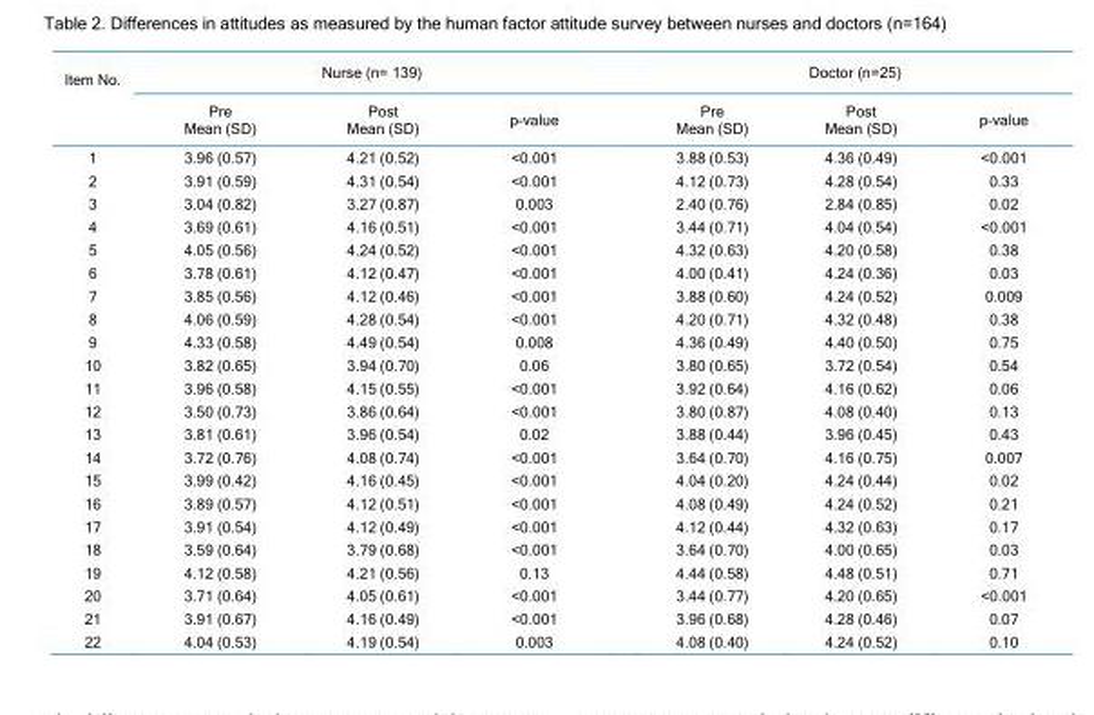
<table><thead><tr><td rowspan="2">Item No.</td><td colspan="3">Nurse (n= 139)</td><td colspan="3">Doctor (n=25)</td></tr><tr><td>Pre Mean (SD)</td><td>Post Mean (SD)</td><td>p-value</td><td>Pre Mean (SD)</td><td>Post Mean (SD)</td><td>p-value</td></tr></thead><tbody><tr><td>1</td><td>3.96 (0.57)</td><td>4.21 (0.52)</td><td>&lt;0.001</td><td>3.88 (0.53)</td><td>4.36 (0.49)</td><td>&lt;0.001</td></tr><tr><td>2</td><td>3.91 (0.59)</td><td>4.31 (0.54)</td><td>&lt;0.001</td><td>4.12 (0.73)</td><td>4.28 (0.54)</td><td>0.33</td></tr><tr><td>3</td><td>3.04 (0.82)</td><td>3.27 (0.87)</td><td>0.003</td><td>2.40 (0.76)</td><td>2.84 (0.85)</td><td>0.02</td></tr><tr><td>4</td><td>3.69 (0.61)</td><td>4.16 (0.51)</td><td>&lt;0.001</td><td>3.44 (0.71)</td><td>4.04 (0.54)</td><td>&lt;0.001</td></tr><tr><td>5</td><td>4.05 (0.56)</td><td>4.24 (0.52)</td><td>&lt;0.001</td><td>4.32 (0.63)</td><td>4.20 (0.58)</td><td>0.38</td></tr><tr><td>6</td><td>3.78 (0.61)</td><td>4.12 (0.47)</td><td>&lt;0.001</td><td>4.00 (0.41)</td><td>4.24 (0.36)</td><td>0.03</td></tr><tr><td>7</td><td>3.85 (0.56)</td><td>4.12 (0.46)</td><td>&lt;0.001</td><td>3.88 (0.60)</td><td>4.24 (0.52)</td><td>0.009</td></tr><tr><td>8</td><td>4.06 (0.59)</td><td>4.28 (0.54)</td><td>&lt;0.001</td><td>4.20 (0.71)</td><td>4.32 (0.48)</td><td>0.38</td></tr><tr><td>9</td><td>4.33 (0.58)</td><td>4.49 (0.54)</td><td>0.008</td><td>4.36 (0.49)</td><td>4.40 (0.50)</td><td>0.75</td></tr><tr><td>10</td><td>3.82 (0.65)</td><td>3.94 (0.70)</td><td>0.06</td><td>3.80 (0.65)</td><td>3.72 (0.54)</td><td>0.54</td></tr><tr><td>11</td><td>3.96 (0.58)</td><td>4.15 (0.55)</td><td>&lt;0.001</td><td>3.92 (0.64)</td><td>4.16 (0.62)</td><td>0.06</td></tr><tr><td>12</td><td>3.50 (0.73)</td><td>3.86 (0.64)</td><td>&lt;0.001</td><td>3.80 (0.87)</td><td>4.08 (0.40)</td><td>0.13</td></tr><tr><td>13</td><td>3.81 (0.61)</td><td>3.96 (0.54)</td><td>0.02</td><td>3.88 (0.44)</td><td>3.96 (0.45)</td><td>0.43</td></tr><tr><td>14</td><td>3.72 (0.76)</td><td>4.08 (0.74)</td><td>&lt;0.001</td><td>3.64 (0.70)</td><td>4.16 (0.75)</td><td>0.007</td></tr><tr><td>15</td><td>3.99 (0.42)</td><td>4.16 (0.45)</td><td>&lt;0.001</td><td>4.04 (0.20)</td><td>4.24 (0.44)</td><td>0.02</td></tr><tr><td>16</td><td>3.89 (0.57)</td><td>4.12 (0.51)</td><td>&lt;0.001</td><td>4.08 (0.49)</td><td>4.24 (0.52)</td><td>0.21</td></tr><tr><td>17</td><td>3.91 (0.54)</td><td>4.12 (0.49)</td><td>&lt;0.001</td><td>4.12 (0.44)</td><td>4.32 (0.63)</td><td>0.17</td></tr><tr><td>18</td><td>3.59 (0.64)</td><td>3.79 (0.68)</td><td>&lt;0.001</td><td>3.64 (0.70)</td><td>4.00 (0.65)</td><td>0.03</td></tr><tr><td>19</td><td>4.12 (0.58)</td><td>4.21 (0.56)</td><td>0.13</td><td>4.44 (0.58)</td><td>4.48 (0.51)</td><td>0.71</td></tr><tr><td>20</td><td>3.71 (0.64)</td><td>4.05 (0.61)</td><td>&lt;0.001</td><td>3.44 (0.77)</td><td>4.20 (0.65)</td><td>&lt;0.001</td></tr><tr><td>21</td><td>3.91 (0.67)</td><td>4.16 (0.49)</td><td>&lt;0.001</td><td>3.96 (0.68)</td><td>4.28 (0.46)</td><td>0.07</td></tr><tr><td>22</td><td>4.04 (0.53)</td><td>4.19 (0.54)</td><td>0.003</td><td>4.08 (0.40)</td><td>4.24 (0.52)</td><td>0.10</td></tr></tbody></table>